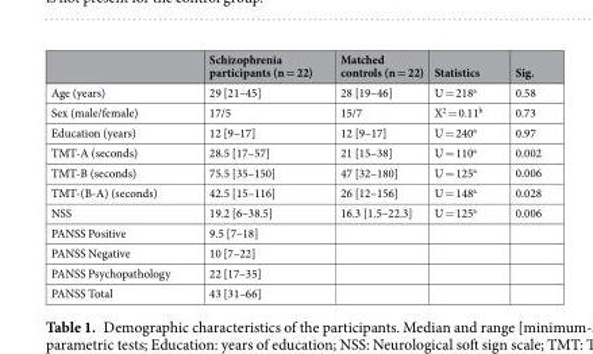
<table><thead><tr><td></td><td>Schizophrenia participants (n = 22)</td><td>Matched controls (n = 22)</td><td>Statistics</td><td>Sig.</td></tr></thead><tbody><tr><td>Age (years)</td><td>29 [21–45]</td><td>28 [19–46]</td><td>U = 218<sup>a</sup></td><td>0.58</td></tr><tr><td>Sex (male/female)</td><td>17/5</td><td>15/7</td><td>X<sup>2</sup> = 0.11<sup>b</sup></td><td>0.73</td></tr><tr><td>Education (years)</td><td>12 [9–17]</td><td>12 [9–17]</td><td>U = 240<sup>a</sup></td><td>0.97</td></tr><tr><td>TMT-A (seconds)</td><td>28.5 [17–57]</td><td>21 [15–38]</td><td>U = 110<sup>a</sup></td><td>0.002</td></tr><tr><td>TMT-B (seconds)</td><td>75.5 [35–150]</td><td>47 [32–180]</td><td>U = 125<sup>a</sup></td><td>0.006</td></tr><tr><td>TMT-(B-A) (seconds)</td><td>42.5 [15–116]</td><td>26 [12–156]</td><td>U = 148<sup>a</sup></td><td>0.028</td></tr><tr><td>NSS</td><td>19.2 [6–38.5]</td><td>16.3 [1.5–22.3]</td><td>U = 125<sup>a</sup></td><td>0.006</td></tr><tr><td>PANSS Positive</td><td>9.5 [7–18]</td><td></td><td></td><td></td></tr><tr><td>PANSS Negative</td><td>10 [7–22]</td><td></td><td></td><td></td></tr><tr><td>PANSS Psychopathology</td><td>22 [17–35]</td><td></td><td></td><td></td></tr><tr><td>PANSS Total</td><td>43 [31–66]</td><td></td><td></td><td></td></tr></tbody></table>